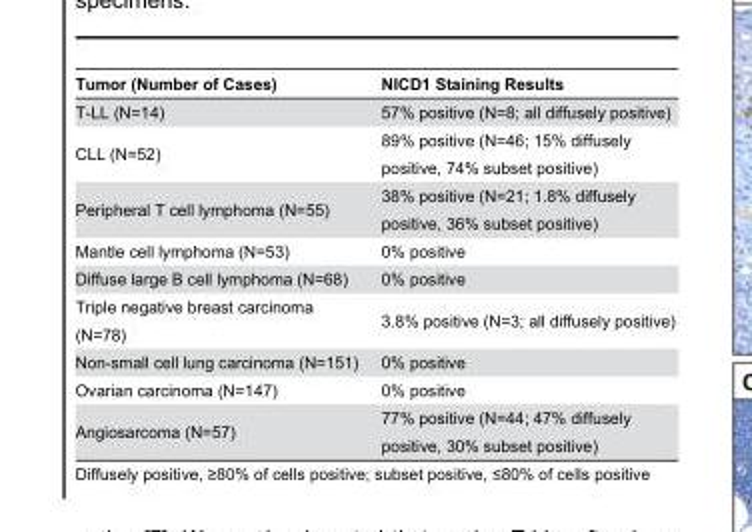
<table><thead><tr><td>Tumor (Number of Cases)</td><td>NICD1 Staining Results</td></tr></thead><tbody><tr><td>T-LL (N=14)</td><td>57% positive (N=8; all diffusely positive)</td></tr><tr><td>CLL (N=52)</td><td>89% positive (N=46; 15% diffusely positive, 74% subset positive)</td></tr><tr><td>Peripheral T cell lymphoma (N=55)</td><td>38% positive (N=21; 1.8% diffusely positive, 36% subset positive)</td></tr><tr><td>Mantle cell lymphoma (N=53)</td><td>0% positive</td></tr><tr><td>Diffuse large B cell lymphoma (N=68)</td><td>0% positive</td></tr><tr><td>Triple negative breast carcinoma (N=78)</td><td>3.8% positive (N=3; all diffusely positive)</td></tr><tr><td>Non-small cell lung carcinoma (N=151)</td><td>0% positive</td></tr><tr><td>Ovarian carcinoma (N=147)</td><td>0% positive</td></tr><tr><td>Angiosarcoma (N=57)</td><td>77% positive (N=44; 47% diffusely positive, 30% subset positive)</td></tr></tbody></table>